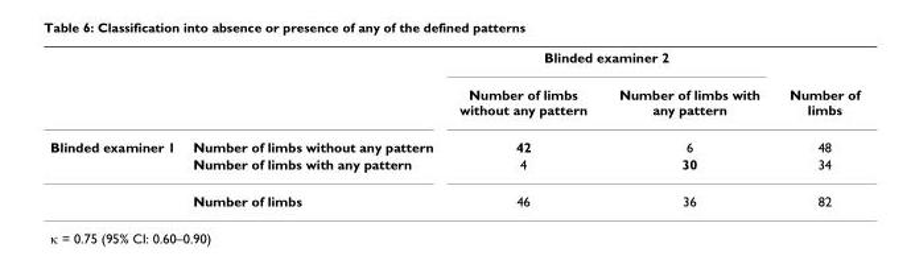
<table><thead><tr><td rowspan="2"></td><td rowspan="2"></td><td colspan="2">Blinded examiner 2</td><td rowspan="2">Number of limbs</td></tr><tr><td>Number of limbs without any pattern</td><td>Number of limbs with any pattern</td></tr></thead><tbody><tr><td rowspan="3">Blinded examiner 1</td><td>Number of limbs without any pattern</td><td>42</td><td>6</td><td>48</td></tr><tr><td>Number of limbs with any pattern</td><td>4</td><td>30</td><td>34</td></tr><tr><td>Number of limbs</td><td>46</td><td>36</td><td>82</td></tr></tbody></table>